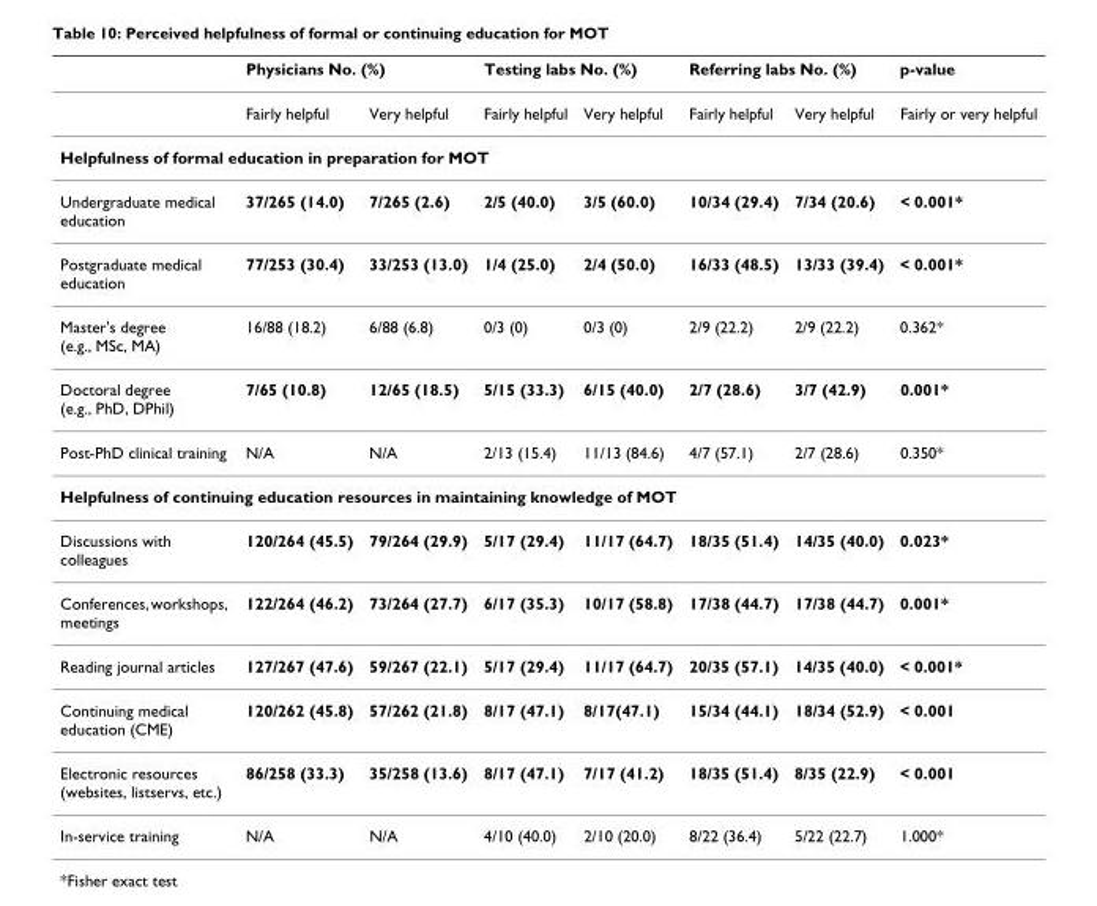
<table><thead><tr><td rowspan="2"></td><td colspan="2">Physicians No. (%)</td><td colspan="2">Testing labs No. (%)</td><td colspan="2">Referring labs No. (%)</td><td rowspan="2">p-value Fairly or very helpful</td></tr><tr><td>Fairly helpful</td><td>Very helpful</td><td>Fairly helpful</td><td>Very helpful</td><td>Fairly helpful</td><td>Very helpful</td></tr></thead><tbody><tr><td colspan="8">Helpfulness of formal education in preparation for MOT</td></tr><tr><td>Undergraduate medical education</td><td>37/265 (14.0)</td><td>7/265 (2.6)</td><td>2/5 (40.0)</td><td>3/5 (60.0)</td><td>10/34 (29.4)</td><td>7/34 (20.6)</td><td>&lt; 0.001*</td></tr><tr><td>Postgraduate medical education</td><td>77/253 (30.4)</td><td>33/253 (13.0)</td><td>1/4 (25.0)</td><td>2/4 (50.0)</td><td>16/33 (48.5)</td><td>13/33 (39.4)</td><td>&lt; 0.001*</td></tr><tr><td>Master&#x27;s degree (e.g., MSc, MA)</td><td>16/88 (18.2)</td><td>6/88 (6.8)</td><td>0/3 (0)</td><td>0/3 (0)</td><td>2/9 (22.2)</td><td>2/9 (22.2)</td><td>0.362*</td></tr><tr><td>Doctoral degree (e.g., PhD, DPhil)</td><td>7/65 (10.8)</td><td>12/65 (18.5)</td><td>5/15 (33.3)</td><td>6/15 (40.0)</td><td>2/7 (28.6)</td><td>3/7 (42.9)</td><td>0.001*</td></tr><tr><td>Post-PhD clinical training</td><td>N/A</td><td>N/A</td><td>2/13 (15.4)</td><td>11/13 (84.6)</td><td>4/7 (57.1)</td><td>2/7 (28.6)</td><td>0.350*</td></tr><tr><td colspan="8">Helpfulness of continuing education resources in maintaining knowledge of MOT</td></tr><tr><td>Discussions with colleagues</td><td>120/264 (45.5)</td><td>79/264 (29.9)</td><td>5/17 (29.4)</td><td>11/17 (64.7)</td><td>18/35 (51.4)</td><td>14/35 (40.0)</td><td>0.023*</td></tr><tr><td>Conferences, workshops, meetings</td><td>122/264 (46.2)</td><td>73/264 (27.7)</td><td>6/17 (35.3)</td><td>10/17 (58.8)</td><td>17/38 (44.7)</td><td>17/38 (44.7)</td><td>0.001*</td></tr><tr><td>Reading journal articles</td><td>127/267 (47.6)</td><td>59/267 (22.1)</td><td>5/17 (29.4)</td><td>11/17 (64.7)</td><td>20/35 (57.1)</td><td>14/35 (40.0)</td><td>&lt; 0.001*</td></tr><tr><td>Continuing medical education (CME)</td><td>120/262 (45.8)</td><td>57/262 (21.8)</td><td>8/17 (47.1)</td><td>8/17(47.1)</td><td>15/34 (44.1)</td><td>18/34 (52.9)</td><td>&lt; 0.001</td></tr><tr><td>Electronic resources (websites, listservs, etc.)</td><td>86/258 (33.3)</td><td>35/258 (13.6)</td><td>8/17 (47.1)</td><td>7/17 (41.2)</td><td>18/35 (51.4)</td><td>8/35 (22.9)</td><td>&lt; 0.001</td></tr><tr><td>In-service training</td><td>N/A</td><td>N/A</td><td>4/10 (40.0)</td><td>2/10 (20.0)</td><td>8/22 (36.4)</td><td>5/22 (22.7)</td><td>1.000*</td></tr></tbody></table>